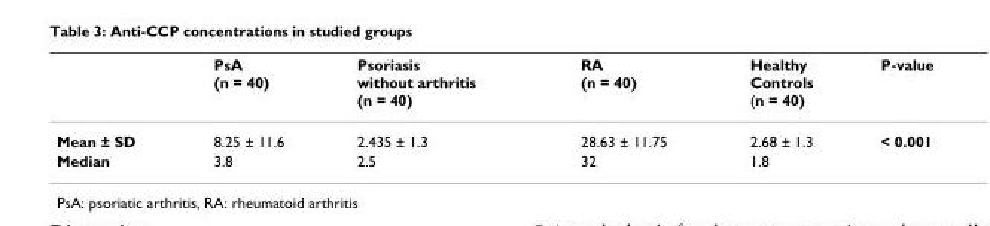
<table><thead><tr><td></td><td>PsA (n = 40)</td><td>Psoriasis without arthritis (n = 40)</td><td>RA (n = 40)</td><td>Healthy Controls (n = 40)</td><td>P-value</td></tr></thead><tbody><tr><td>Mean ± SD</td><td>8.25 ± 11.6</td><td>2.435 ± 1.3</td><td>28.63 ± 11.75</td><td>2.68 ± 1.3</td><td>&lt; 0.001</td></tr><tr><td>Median</td><td>3.8</td><td>2.5</td><td>32</td><td>1.8</td><td></td></tr></tbody></table>